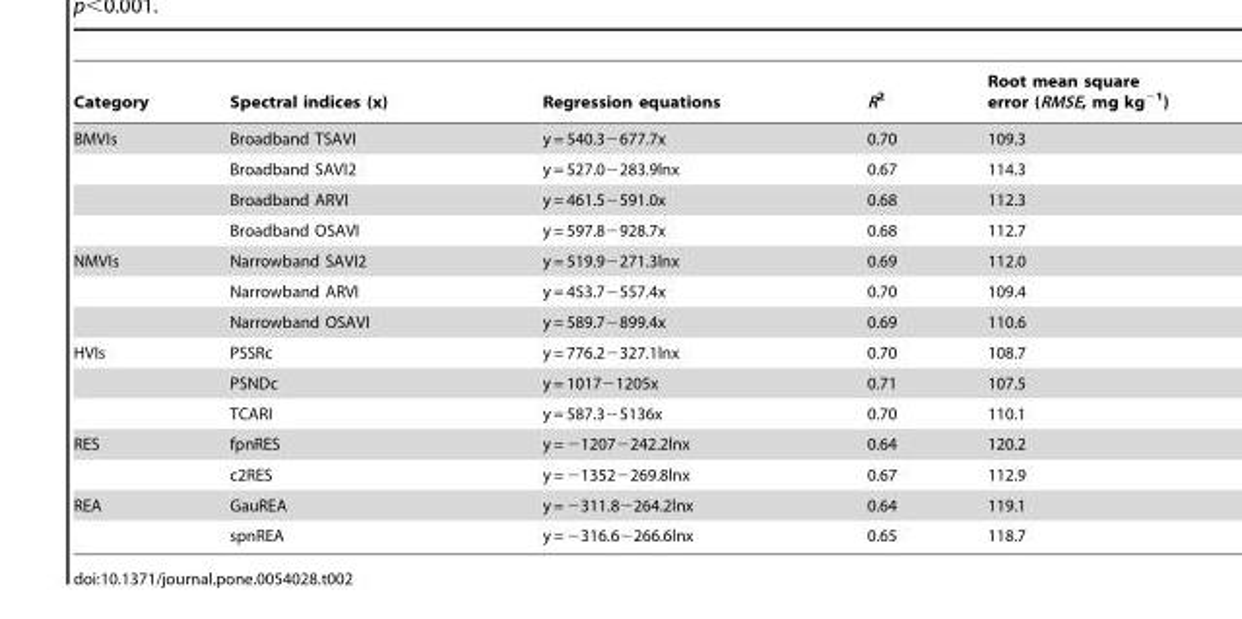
<table><thead><tr><td>Category</td><td>Spectral indices (x)</td><td>Regression equations</td><td>R<sup>2</sup></td><td>Root mean square error (RMSE, mg kg<sup>−1</sup>)</td></tr></thead><tbody><tr><td rowspan="4">BMVIs</td><td>Broadband TSAVI</td><td>y = 540.3−677.7x</td><td>0.70</td><td>109.3</td></tr><tr><td>Broadband SAVI2</td><td>y = 527.0−283.9lnx</td><td>0.67</td><td>114.3</td></tr><tr><td>Broadband ARVI</td><td>y = 461.5−591.0x</td><td>0.68</td><td>112.3</td></tr><tr><td>Broadband OSAVI</td><td>y = 597.8−928.7x</td><td>0.68</td><td>112.7</td></tr><tr><td rowspan="3">NMVIs</td><td>Narrowband SAVI2</td><td>y = 519.9−271.3lnx</td><td>0.69</td><td>112.0</td></tr><tr><td>Narrowband ARVI</td><td>y = 453.7−557.4x</td><td>0.70</td><td>109.4</td></tr><tr><td>Narrowband OSAVI</td><td>y = 589.7−899.4x</td><td>0.69</td><td>110.6</td></tr><tr><td rowspan="3">HVIs</td><td>PSSRc</td><td>y = 776.2−327.1lnx</td><td>0.70</td><td>108.7</td></tr><tr><td>PSNDc</td><td>y = 1017−1205x</td><td>0.71</td><td>107.5</td></tr><tr><td>TCARI</td><td>y = 587.3−5136x</td><td>0.70</td><td>110.1</td></tr><tr><td rowspan="2">RES</td><td>fpnRES</td><td>y = −1207−242.2lnx</td><td>0.64</td><td>120.2</td></tr><tr><td>c2RES</td><td>y = −1352−269.8lnx</td><td>0.67</td><td>112.9</td></tr><tr><td rowspan="2">REA</td><td>GauREA</td><td>y = −311.8−264.2lnx</td><td>0.64</td><td>119.1</td></tr><tr><td>spnREA</td><td>y = −316.6−266.6lnx</td><td>0.65</td><td>118.7</td></tr></tbody></table>